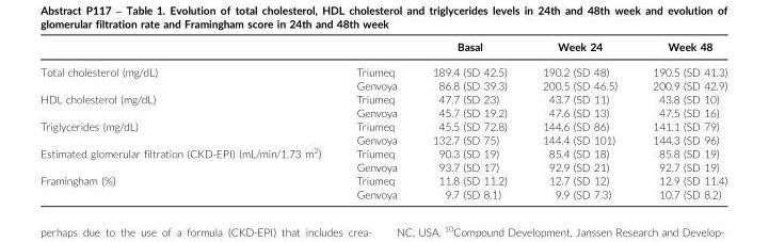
<table><thead><tr><td></td><td></td><td>Basal</td><td>Week 24</td><td>Week 48</td></tr></thead><tbody><tr><td rowspan="2">Total cholesterol (mg/dL)</td><td>Triumeq</td><td>189.4 (SD 42.5)</td><td>190.2 (SD 48)</td><td>190.5 (SD 41.3)</td></tr><tr><td>Genvoya</td><td>86.8 (SD 39.3)</td><td>200.5 (SD 46.5)</td><td>200.9 (SD 42.9)</td></tr><tr><td rowspan="2">HDL cholesterol (mg/dL)</td><td>Triumeq</td><td>47.7 (SD 23)</td><td>43.7 (SD 11)</td><td>43.8 (SD 10)</td></tr><tr><td>Genvoya</td><td>45.7 (SD 19.2)</td><td>47.6 (SD 13)</td><td>47.5 (SD 16)</td></tr><tr><td rowspan="2">Triglycerides (mg/dL)</td><td>Triumeq</td><td>45.5 (SD 72.8)</td><td>144.6 (SD 86)</td><td>141.1 (SD 79)</td></tr><tr><td>Genvoya</td><td>132.7 (SD 75)</td><td>144.4 (SD 101)</td><td>144.3 (SD 96)</td></tr><tr><td rowspan="2">Estimated glomerular filtration (CKD-EPI) (mL/min/1.73 m<sup>2</sup>)</td><td>Triumeq</td><td>90.3 (SD 19)</td><td>85.4 (SD 18)</td><td>85.8 (SD 19)</td></tr><tr><td>Genvoya</td><td>93.7 (SD 17)</td><td>92.9 (SD 21)</td><td>92.7 (SD 19)</td></tr><tr><td rowspan="2">Framingham (%)</td><td>Triumeq</td><td>11.8 (SD 11.2)</td><td>12.7 (SD 12)</td><td>12.9 (SD 11.4)</td></tr><tr><td>Genvoya</td><td>9.7 (SD 8.1)</td><td>9.9 (SD 7.3)</td><td>10.7 (SD 8.2)</td></tr></tbody></table>